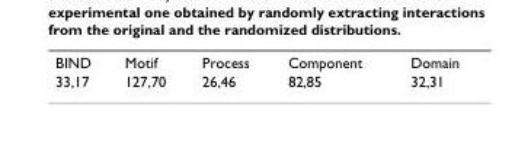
<table><tbody><tr><td>BIND</td><td>Motif</td><td>Process</td><td>Component</td><td>Domain</td></tr><tr><td>33,17</td><td>127,70</td><td>26,46</td><td>82,85</td><td>32,31</td></tr></tbody></table>